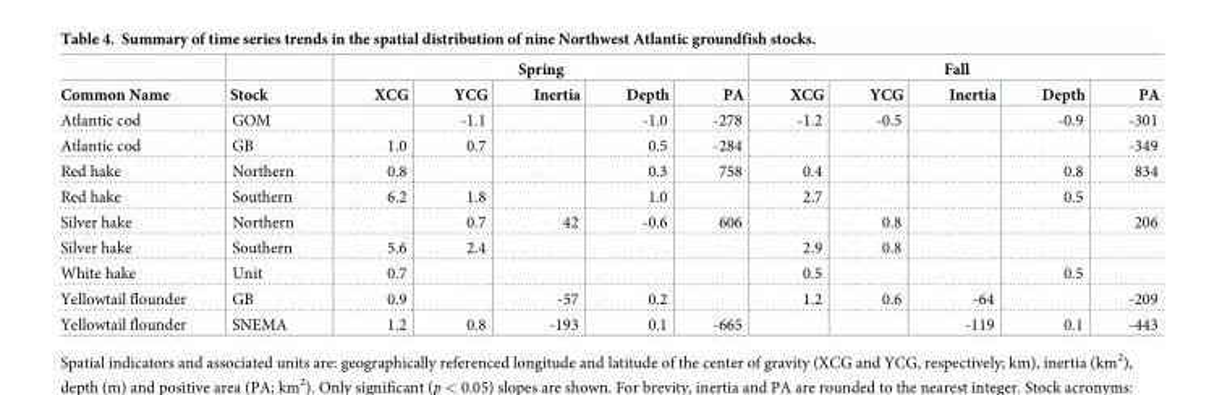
<table><thead><tr><td rowspan="2">Common Name</td><td rowspan="2">Stock</td><td colspan="5">Spring</td><td colspan="5">Fall</td></tr><tr><td>XCG</td><td>YCG</td><td>Inertia</td><td>Depth</td><td>PA</td><td>XCG</td><td>YCG</td><td>Inertia</td><td>Depth</td><td>PA</td></tr></thead><tbody><tr><td>Atlantic cod</td><td>GOM</td><td></td><td>-1.1</td><td></td><td>-1.0</td><td>-278</td><td>-1.2</td><td>-0.5</td><td></td><td>-0.9</td><td>-301</td></tr><tr><td>Atlantic cod</td><td>GB</td><td>1.0</td><td>0.7</td><td></td><td>0.5</td><td>-284</td><td></td><td></td><td></td><td></td><td>-349</td></tr><tr><td>Red hake</td><td>Northern</td><td>0.8</td><td></td><td></td><td>0.3</td><td>758</td><td>0.4</td><td></td><td></td><td>0.8</td><td>834</td></tr><tr><td>Red hake</td><td>Southern</td><td>6.2</td><td>1.8</td><td></td><td>1.0</td><td></td><td>2.7</td><td></td><td></td><td>0.5</td><td></td></tr><tr><td>Silver hake</td><td>Northern</td><td></td><td>0.7</td><td>42</td><td>-0.6</td><td>606</td><td></td><td>0.8</td><td></td><td></td><td>206</td></tr><tr><td>Silver hake</td><td>Southern</td><td>5.6</td><td>2.4</td><td></td><td></td><td></td><td>2.9</td><td>0.8</td><td></td><td></td><td></td></tr><tr><td>White hake</td><td>Unit</td><td>0.7</td><td></td><td></td><td></td><td></td><td>0.5</td><td></td><td></td><td>0.5</td><td></td></tr><tr><td>Yellowtail flounder</td><td>GB</td><td>0.9</td><td></td><td>-57</td><td>0.2</td><td></td><td>1.2</td><td>0.6</td><td>-64</td><td></td><td>-209</td></tr><tr><td>Yellowtail flounder</td><td>SNEMA</td><td>1.2</td><td>0.8</td><td>-193</td><td>0.1</td><td>-665</td><td></td><td></td><td>-119</td><td>0.1</td><td>-443</td></tr></tbody></table>